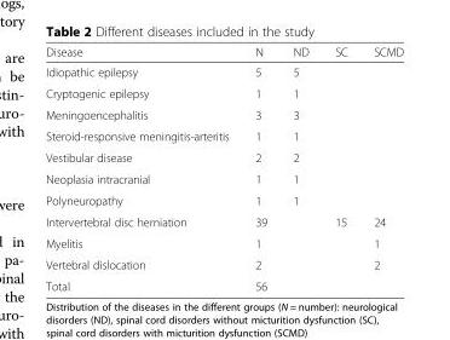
<table><thead><tr><td>Disease</td><td>N</td><td>ND</td><td>SC</td><td>SCMD</td></tr></thead><tbody><tr><td>Idiopathic epilepsy</td><td>5</td><td>5</td><td></td><td></td></tr><tr><td>Cryptogenic epilepsy</td><td>1</td><td>1</td><td></td><td></td></tr><tr><td>Meningoencephalitis</td><td>3</td><td>3</td><td></td><td></td></tr><tr><td>Steroid-responsive meningitis-arteritis</td><td>1</td><td>1</td><td></td><td></td></tr><tr><td>Vestibular disease</td><td>2</td><td>2</td><td></td><td></td></tr><tr><td>Neoplasia intracranial</td><td>1</td><td>1</td><td></td><td></td></tr><tr><td>Polyneuropathy</td><td>1</td><td>1</td><td></td><td></td></tr><tr><td>Intervertebral disc herniation</td><td>39</td><td></td><td>15</td><td>24</td></tr><tr><td>Myelitis</td><td>1</td><td></td><td></td><td>1</td></tr><tr><td>Vertebral dislocation</td><td>2</td><td></td><td></td><td>2</td></tr><tr><td>Total</td><td>56</td><td></td><td></td><td></td></tr></tbody></table>